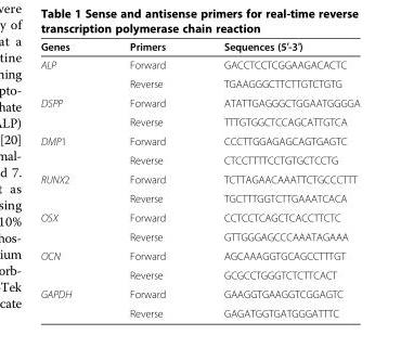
<table><thead><tr><td>Genes</td><td>Primers</td><td>Sequences (5′-3′)</td></tr></thead><tbody><tr><td rowspan="2">ALP</td><td>Forward</td><td>GACCTCCTCGGAAGACACTC</td></tr><tr><td>Reverse</td><td>TGAAGGGCTTCTTGTCTGTG</td></tr><tr><td rowspan="2">DSPP</td><td>Forward</td><td>ATATTGAGGGCTGGAATGGGGA</td></tr><tr><td>Reverse</td><td>TTTGTGGCTCCAGCATTGTCA</td></tr><tr><td rowspan="2">DMP1</td><td>Forward</td><td>CCCTTGGAGAGCAGTGAGTC</td></tr><tr><td>Reverse</td><td>CTCCTTTTCCTGTGCTCCTG</td></tr><tr><td rowspan="2">RUNX2</td><td>Forward</td><td>TCTTAGAACAAATTCTGCCCTTT</td></tr><tr><td>Reverse</td><td>TGCTTTGGTCTTGAAATCACA</td></tr><tr><td rowspan="2">OSX</td><td>Forward</td><td>CCTCCTCAGCTCACCTTCTC</td></tr><tr><td>Reverse</td><td>GTTGGGAGCCCAAATAGAAA</td></tr><tr><td rowspan="2">OCN</td><td>Forward</td><td>AGCAAAGGTGCAGCCTTTGT</td></tr><tr><td>Reverse</td><td>GCGCCTGGGTCTCTTCACT</td></tr><tr><td rowspan="2">GAPDH</td><td>Forward</td><td>GAAGGTGAAGGTCGGAGTC</td></tr><tr><td>Reverse</td><td>GAGATGGTGATGGGATTTC</td></tr></tbody></table>